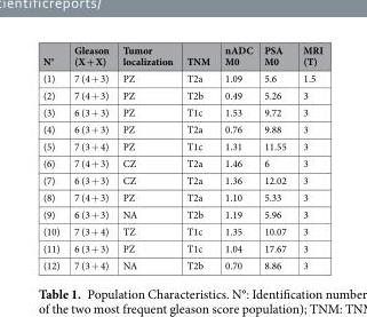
<table><thead><tr><td>N°</td><td>Gleason (X + X)</td><td>Tumor localization</td><td>TNM</td><td>nADC M0</td><td>PSA M0</td><td>MRI (T)</td></tr></thead><tbody><tr><td>(1)</td><td>7 (4 + 3)</td><td>PZ</td><td>T2a</td><td>1.09</td><td>5.6</td><td>1.5</td></tr><tr><td>(2)</td><td>7 (4 + 3)</td><td>PZ</td><td>T2b</td><td>0.49</td><td>5.26</td><td>3</td></tr><tr><td>(3)</td><td>6 (3 + 3)</td><td>PZ</td><td>T1c</td><td>1.53</td><td>9.72</td><td>3</td></tr><tr><td>(4)</td><td>6 (3 + 3)</td><td>PZ</td><td>T2a</td><td>0.76</td><td>9.88</td><td>3</td></tr><tr><td>(5)</td><td>7 (3 + 4)</td><td>PZ</td><td>T1c</td><td>1.31</td><td>11.55</td><td>3</td></tr><tr><td>(6)</td><td>7 (4 + 3)</td><td>CZ</td><td>T2a</td><td>1.46</td><td>6</td><td>3</td></tr><tr><td>(7)</td><td>6 (3 + 3)</td><td>CZ</td><td>T2a</td><td>1.36</td><td>12.02</td><td>3</td></tr><tr><td>(8)</td><td>7 (4 + 3)</td><td>PZ</td><td>T2a</td><td>1.10</td><td>5.33</td><td>3</td></tr><tr><td>(9)</td><td>6 (3 + 3)</td><td>NA</td><td>T2b</td><td>1.19</td><td>5.96</td><td>3</td></tr><tr><td>(10)</td><td>7 (3 + 4)</td><td>TZ</td><td>T1c</td><td>1.35</td><td>10.07</td><td>3</td></tr><tr><td>(11)</td><td>6 (3 + 3)</td><td>PZ</td><td>T1c</td><td>1.04</td><td>17.67</td><td>3</td></tr><tr><td>(12)</td><td>7 (3 + 4)</td><td>NA</td><td>T2b</td><td>0.70</td><td>8.86</td><td>3</td></tr></tbody></table>